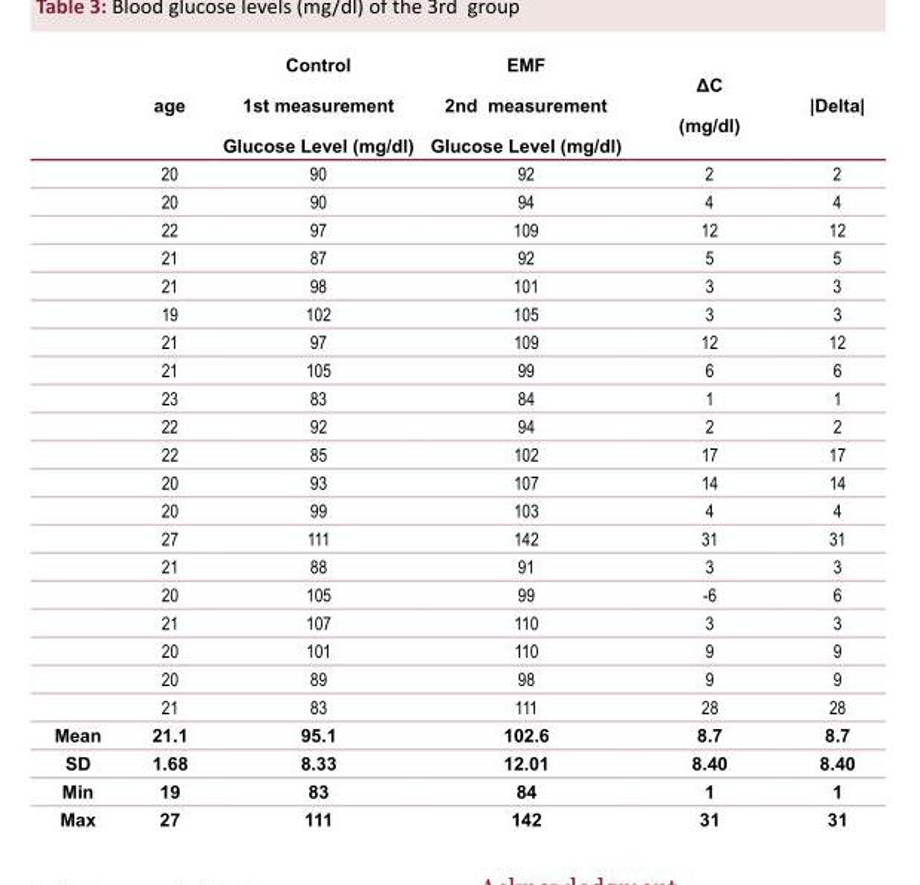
<table><thead><tr><td></td><td>age</td><td>Control 1st measurement Glucose Level (mg/dl)</td><td>EMF 2nd measurement Glucose Level (mg/dl)</td><td>ΔC (mg/dl)</td><td>|Delta|</td></tr></thead><tbody><tr><td></td><td>20</td><td>90</td><td>92</td><td>2</td><td>2</td></tr><tr><td></td><td>20</td><td>90</td><td>94</td><td>4</td><td>4</td></tr><tr><td></td><td>22</td><td>97</td><td>109</td><td>12</td><td>12</td></tr><tr><td></td><td>21</td><td>87</td><td>92</td><td>5</td><td>5</td></tr><tr><td></td><td>21</td><td>98</td><td>101</td><td>3</td><td>3</td></tr><tr><td></td><td>19</td><td>102</td><td>105</td><td>3</td><td>3</td></tr><tr><td></td><td>21</td><td>97</td><td>109</td><td>12</td><td>12</td></tr><tr><td></td><td>21</td><td>105</td><td>99</td><td>6</td><td>6</td></tr><tr><td></td><td>23</td><td>83</td><td>84</td><td>1</td><td>1</td></tr><tr><td></td><td>22</td><td>92</td><td>94</td><td>2</td><td>2</td></tr><tr><td></td><td>22</td><td>85</td><td>102</td><td>17</td><td>17</td></tr><tr><td></td><td>20</td><td>93</td><td>107</td><td>14</td><td>14</td></tr><tr><td></td><td>20</td><td>99</td><td>103</td><td>4</td><td>4</td></tr><tr><td></td><td>27</td><td>111</td><td>142</td><td>31</td><td>31</td></tr><tr><td></td><td>21</td><td>88</td><td>91</td><td>3</td><td>3</td></tr><tr><td></td><td>20</td><td>105</td><td>99</td><td>-6</td><td>6</td></tr><tr><td></td><td>21</td><td>107</td><td>110</td><td>3</td><td>3</td></tr><tr><td></td><td>20</td><td>101</td><td>110</td><td>9</td><td>9</td></tr><tr><td></td><td>20</td><td>89</td><td>98</td><td>9</td><td>9</td></tr><tr><td></td><td>21</td><td>83</td><td>111</td><td>28</td><td>28</td></tr><tr><td>Mean</td><td>21.1</td><td>95.1</td><td>102.6</td><td>8.7</td><td>8.7</td></tr><tr><td>SD</td><td>1.68</td><td>8.33</td><td>12.01</td><td>8.40</td><td>8.40</td></tr><tr><td>Min</td><td>19</td><td>83</td><td>84</td><td>1</td><td>1</td></tr><tr><td>Max</td><td>27</td><td>111</td><td>142</td><td>31</td><td>31</td></tr></tbody></table>